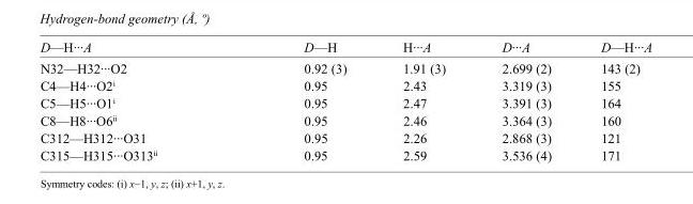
<table><tbody><tr><td>D—H···A</td><td>D—H</td><td>H···A</td><td>D···A</td><td>D—H···A</td></tr><tr><td>N32—H32···O2</td><td>0.92 (3)</td><td>1.91 (3)</td><td>2.699 (2)</td><td>143 (2)</td></tr><tr><td>C4—H4···O2<sup>i</sup></td><td>0.95</td><td>2.43</td><td>3.319 (3)</td><td>155</td></tr><tr><td>C5—H5···O1<sup>i</sup></td><td>0.95</td><td>2.47</td><td>3.391 (3)</td><td>164</td></tr><tr><td>C8—H8···O6<sup>ii</sup></td><td>0.95</td><td>2.46</td><td>3.364 (3)</td><td>160</td></tr><tr><td>C312—H312···O31</td><td>0.95</td><td>2.26</td><td>2.868 (3)</td><td>121</td></tr><tr><td>C315—H315···O313<sup>ii</sup></td><td>0.95</td><td>2.59</td><td>3.536 (4)</td><td>171</td></tr></tbody></table>